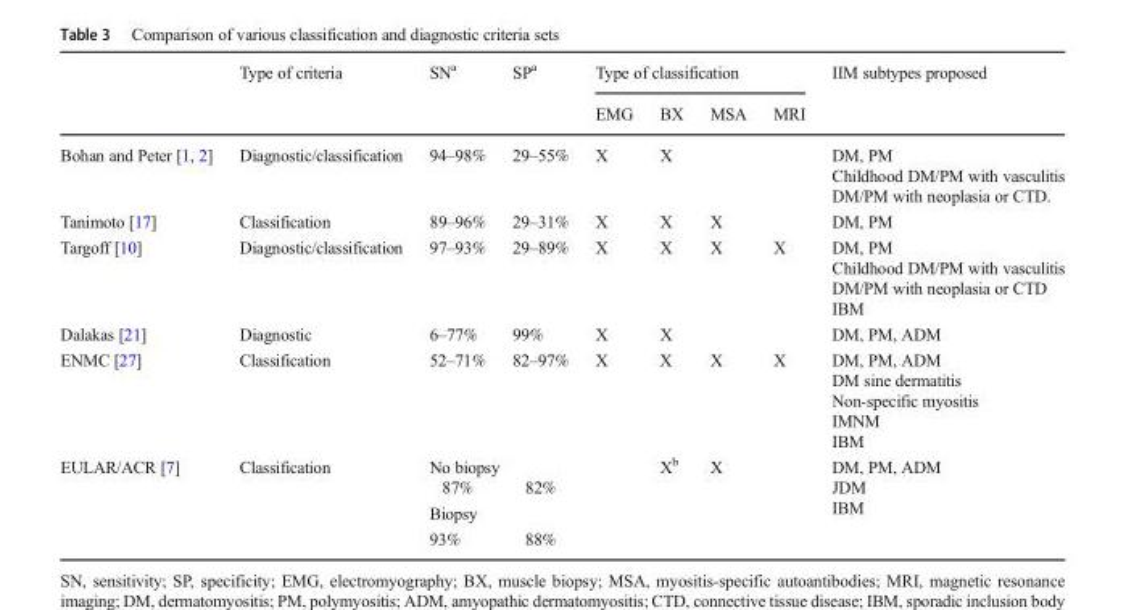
<table><thead><tr><td rowspan="2"></td><td rowspan="2">Type of criteria</td><td rowspan="2">SN<sup>a</sup></td><td rowspan="2">SP<sup>a</sup></td><td colspan="4">Type of classification</td><td rowspan="2">IIM subtypes proposed</td></tr><tr><td>EMG</td><td>BX</td><td>MSA</td><td>MRI</td></tr></thead><tbody><tr><td>Bohan and Peter [1, 2]</td><td>Diagnostic/classification</td><td>94–98%</td><td>29–55%</td><td>X</td><td>X</td><td></td><td></td><td>DM, PM Childhood DM/PM with vasculitis DM/PM with neoplasia or CTD.</td></tr><tr><td>Tanimoto [17]</td><td>Classification</td><td>89–96%</td><td>29–31%</td><td>X</td><td>X</td><td>X</td><td></td><td>DM, PM</td></tr><tr><td>Targoff [10]</td><td>Diagnostic/classification</td><td>97–93%</td><td>29–89%</td><td>X</td><td>X</td><td>X</td><td>X</td><td>DM, PM Childhood DM/PM with vasculitis DM/PM with neoplasia or CTD IBM</td></tr><tr><td>Dalakas [21]</td><td>Diagnostic</td><td>6–77%</td><td>99%</td><td>X</td><td>X</td><td></td><td></td><td>DM, PM, ADM</td></tr><tr><td>ENMC [27]</td><td>Classification</td><td>52–71%</td><td>82–97%</td><td>X</td><td>X</td><td>X</td><td>X</td><td>DM, PM, ADM DM sine dermatitis Non-specific myositis IMNM IBM</td></tr><tr><td rowspan="4">EULAR/ACR [7]</td><td rowspan="4">Classification</td><td colspan="2">No biopsy</td><td rowspan="4"></td><td rowspan="4">X<sup>b</sup></td><td rowspan="4">X</td><td rowspan="4"></td><td rowspan="4">DM, PM, ADM JDM IBM</td></tr><tr><td>87%</td><td>82%</td></tr><tr><td colspan="2">Biopsy</td></tr><tr><td>93%</td><td>88%</td></tr></tbody></table>